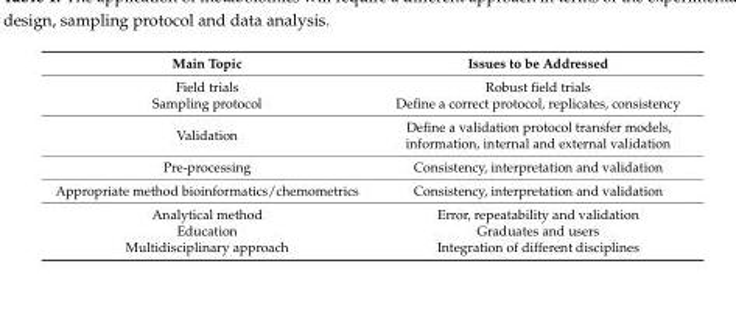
<table><thead><tr><td>Main Topic</td><td>Issues to be Addressed</td></tr></thead><tbody><tr><td>Field trials</td><td>Robust field trials</td></tr><tr><td>Sampling protocol</td><td>Define a correct protocol, replicates, consistency</td></tr><tr><td>Validation</td><td>Define a validation protocol transfer models, information, internal and external validation</td></tr><tr><td>Pre-processing</td><td>Consistency, interpretation and validation</td></tr><tr><td>Appropriate method bioinformatics/chemometrics</td><td>Consistency, interpretation and validation</td></tr><tr><td>Analytical method</td><td>Error, repeatability and validation</td></tr><tr><td>Education</td><td>Graduates and users</td></tr><tr><td>Multidisciplinary approach</td><td>Integration of different disciplines</td></tr></tbody></table>